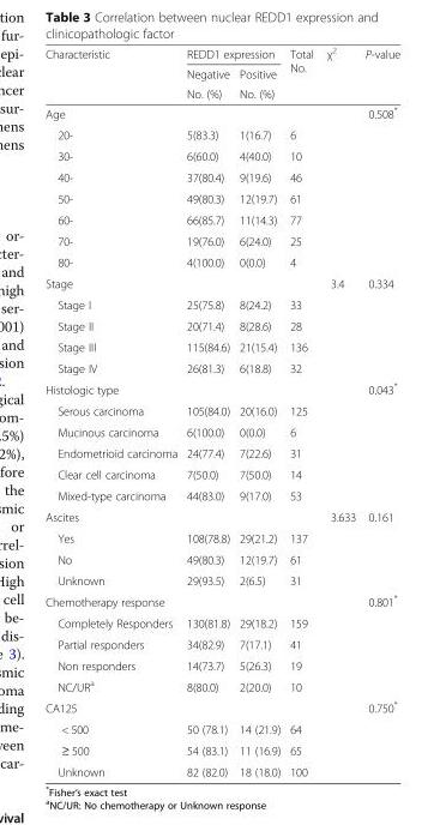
<table><thead><tr><td rowspan="3">Characteristic</td><td colspan="2">REDD1 expression</td><td rowspan="3">Total No.</td><td rowspan="3">χ<sup>2</sup></td><td rowspan="3">P-value</td></tr><tr><td rowspan="2">Negative No. (%)</td><td rowspan="2">Positive No. (%)</td></tr><tr></tr></thead><tbody><tr><td colspan="5">Age</td><td>0.508*</td></tr><tr><td>20-</td><td>5(83.3)</td><td>1(16.7)</td><td>6</td><td></td><td></td></tr><tr><td>30-</td><td>6(60.0)</td><td>4(40.0)</td><td>10</td><td></td><td></td></tr><tr><td>40-</td><td>37(80.4)</td><td>9(19.6)</td><td>46</td><td></td><td></td></tr><tr><td>50-</td><td>49(80.3)</td><td>12(19.7)</td><td>61</td><td></td><td></td></tr><tr><td>60-</td><td>66(85.7)</td><td>11(14.3)</td><td>77</td><td></td><td></td></tr><tr><td>70-</td><td>19(76.0)</td><td>6(24.0)</td><td>25</td><td></td><td></td></tr><tr><td>80-</td><td>4(100.0)</td><td>0(0.0)</td><td>4</td><td></td><td></td></tr><tr><td colspan="4">Stage</td><td>3.4</td><td>0.334</td></tr><tr><td>Stage I</td><td>25(75.8)</td><td>8(24.2)</td><td>33</td><td></td><td></td></tr><tr><td>Stage II</td><td>20(71.4)</td><td>8(28.6)</td><td>28</td><td></td><td></td></tr><tr><td>Stage III</td><td>115(84.6)</td><td>21(15.4)</td><td>136</td><td></td><td></td></tr><tr><td>Stage IV</td><td>26(81.3)</td><td>6(18.8)</td><td>32</td><td></td><td></td></tr><tr><td colspan="5">Histologic type</td><td>0.043*</td></tr><tr><td>Serous carcinoma</td><td>105(84.0)</td><td>20(16.0)</td><td>125</td><td></td><td></td></tr><tr><td>Mucinous carcinoma</td><td>6(100.0)</td><td>0(0.0)</td><td>6</td><td></td><td></td></tr><tr><td>Endometrioid carcinoma</td><td>24(77.4)</td><td>7(22.6)</td><td>31</td><td></td><td></td></tr><tr><td>Clear cell carcinoma</td><td>7(50.0)</td><td>7(50.0)</td><td>14</td><td></td><td></td></tr><tr><td>Mixed-type carcinoma</td><td>44(83.0)</td><td>9(17.0)</td><td>53</td><td></td><td></td></tr><tr><td colspan="4">Ascites</td><td>3.633</td><td>0.161</td></tr><tr><td>Yes</td><td>108(78.8)</td><td>29(21.2)</td><td>137</td><td></td><td></td></tr><tr><td>No</td><td>49(80.3)</td><td>12(19.7)</td><td>61</td><td></td><td></td></tr><tr><td>Unknown</td><td>29(93.5)</td><td>2(6.5)</td><td>31</td><td></td><td></td></tr><tr><td colspan="5">Chemotherapy response</td><td>0.801*</td></tr><tr><td>Completely Responders</td><td>130(81.8)</td><td>29(18.2)</td><td>159</td><td></td><td></td></tr><tr><td>Partial responders</td><td>34(82.9)</td><td>7(17.1)</td><td>41</td><td></td><td></td></tr><tr><td>Non responders</td><td>14(73.7)</td><td>5(26.3)</td><td>19</td><td></td><td></td></tr><tr><td>NC/UR<sup>a</sup></td><td>8(80.0)</td><td>2(20.0)</td><td>10</td><td></td><td></td></tr><tr><td colspan="5">CA125</td><td>0.750*</td></tr><tr><td>&lt; 500</td><td>50 (78.1)</td><td>14 (21.9)</td><td>64</td><td></td><td></td></tr><tr><td>≥ 500</td><td>54 (83.1)</td><td>11 (16.9)</td><td>65</td><td></td><td></td></tr><tr><td>Unknown</td><td>82 (82.0)</td><td>18 (18.0)</td><td>100</td><td></td><td></td></tr></tbody></table>